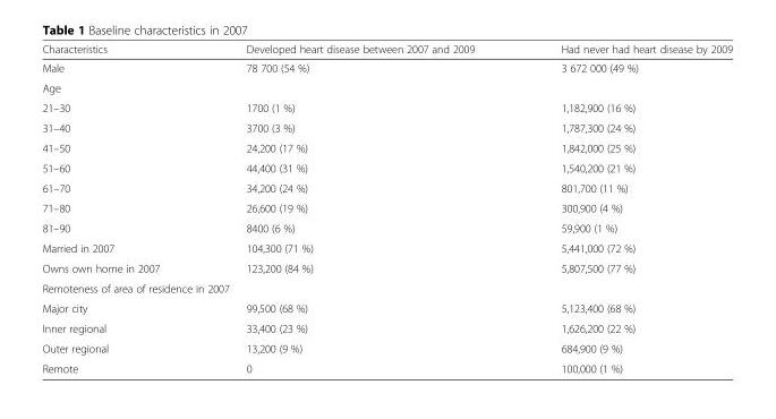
<table><thead><tr><td>Characteristics</td><td>Developed heart disease between 2007 and 2009</td><td>Had never had heart disease by 2009</td></tr></thead><tbody><tr><td>Male</td><td>78 700 (54 %)</td><td>3 672 000 (49 %)</td></tr><tr><td colspan="3">Age</td></tr><tr><td>21–30</td><td>1700 (1 %)</td><td>1,182,900 (16 %)</td></tr><tr><td>31–40</td><td>3700 (3 %)</td><td>1,787,300 (24 %)</td></tr><tr><td>41–50</td><td>24,200 (17 %)</td><td>1,842,000 (25 %)</td></tr><tr><td>51–60</td><td>44,400 (31 %)</td><td>1,540,200 (21 %)</td></tr><tr><td>61–70</td><td>34,200 (24 %)</td><td>801,700 (11 %)</td></tr><tr><td>71–80</td><td>26,600 (19 %)</td><td>300,900 (4 %)</td></tr><tr><td>81–90</td><td>8400 (6 %)</td><td>59,900 (1 %)</td></tr><tr><td>Married in 2007</td><td>104,300 (71 %)</td><td>5,441,000 (72 %)</td></tr><tr><td>Owns own home in 2007</td><td>123,200 (84 %)</td><td>5,807,500 (77 %)</td></tr><tr><td colspan="3">Remoteness of area of residence in 2007</td></tr><tr><td>Major city</td><td>99,500 (68 %)</td><td>5,123,400 (68 %)</td></tr><tr><td>Inner regional</td><td>33,400 (23 %)</td><td>1,626,200 (22 %)</td></tr><tr><td>Outer regional</td><td>13,200 (9 %)</td><td>684,900 (9 %)</td></tr><tr><td>Remote</td><td>0</td><td>100,000 (1 %)</td></tr></tbody></table>